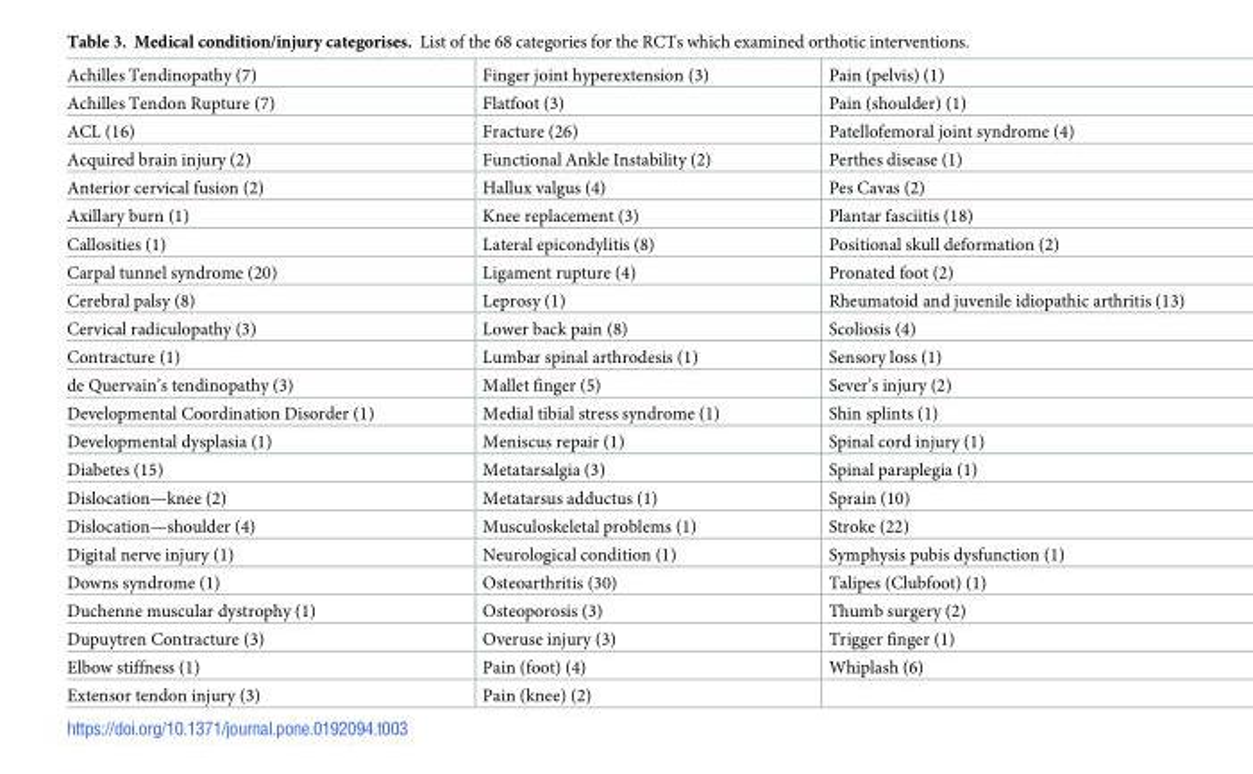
<table><tbody><tr><td>Achilles Tendinopathy (7)</td><td>Finger joint hyperextension (3)</td><td>Pain (pelvis) (1)</td></tr><tr><td>Achilles Tendon Rupture (7)</td><td>Flatfoot (3)</td><td>Pain (shoulder) (1)</td></tr><tr><td>ACL (16)</td><td>Fracture (26)</td><td>Patellofemoral joint syndrome (4)</td></tr><tr><td>Acquired brain injury (2)</td><td>Functional Ankle Instability (2)</td><td>Perthes disease (1)</td></tr><tr><td>Anterior cervical fusion (2)</td><td>Hallux valgus (4)</td><td>Pes Cavas (2)</td></tr><tr><td>Axillary burn (1)</td><td>Knee replacement (3)</td><td>Plantar fasciitis (18)</td></tr><tr><td>Callosities (1)</td><td>Lateral epicondylitis (8)</td><td>Positional skull deformation (2)</td></tr><tr><td>Carpal tunnel syndrome (20)</td><td>Ligament rupture (4)</td><td>Pronated foot (2)</td></tr><tr><td>Cerebral palsy (8)</td><td>Leprosy (1)</td><td>Rheumatoid and juvenile idiopathic arthritis (13)</td></tr><tr><td>Cervical radiculopathy (3)</td><td>Lower back pain (8)</td><td>Scoliosis (4)</td></tr><tr><td>Contracture (1)</td><td>Lumbar spinal arthrodesis (1)</td><td>Sensory loss (1)</td></tr><tr><td>de Quervain’s tendinopathy (3)</td><td>Mallet finger (5)</td><td>Sever’s injury (2)</td></tr><tr><td>Developmental Coordination Disorder (1)</td><td>Medial tibial stress syndrome (1)</td><td>Shin splints (1)</td></tr><tr><td>Developmental dysplasia (1)</td><td>Meniscus repair (1)</td><td>Spinal cord injury (1)</td></tr><tr><td>Diabetes (15)</td><td>Metatarsalgia (3)</td><td>Spinal paraplegia (1)</td></tr><tr><td>Dislocation—knee (2)</td><td>Metatarsus adductus (1)</td><td>Sprain (10)</td></tr><tr><td>Dislocation—shoulder (4)</td><td>Musculoskeletal problems (1)</td><td>Stroke (22)</td></tr><tr><td>Digital nerve injury (1)</td><td>Neurological condition (1)</td><td>Symphysis pubis dysfunction (1)</td></tr><tr><td>Downs syndrome (1)</td><td>Osteoarthritis (30)</td><td>Talipes (Clubfoot) (1)</td></tr><tr><td>Duchenne muscular dystrophy (1)</td><td>Osteoporosis (3)</td><td>Thumb surgery (2)</td></tr><tr><td>Dupuytren Contracture (3)</td><td>Overuse injury (3)</td><td>Trigger finger (1)</td></tr><tr><td>Elbow stiffness (1)</td><td>Pain (foot) (4)</td><td>Whiplash (6)</td></tr><tr><td>Extensor tendon injury (3)</td><td>Pain (knee) (2)</td><td></td></tr></tbody></table>